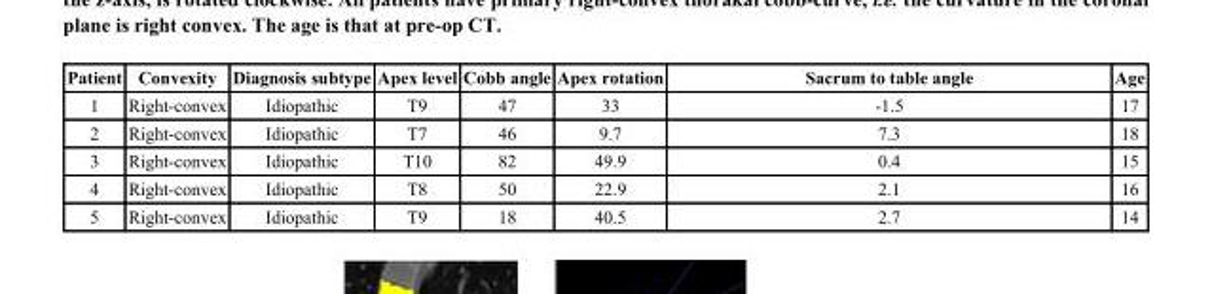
<table><thead><tr><td>Patient</td><td>Convexity</td><td>Diagnosis subtype</td><td>Apex level</td><td>Cobb angle</td><td>Apex rotation</td><td>Sacrum to table angle</td><td>Age</td></tr></thead><tbody><tr><td>1</td><td>Right-convex</td><td>Idiopathic</td><td>T9</td><td>47</td><td>33</td><td>-1.5</td><td>17</td></tr><tr><td>2</td><td>Right-convex</td><td>Idiopathic</td><td>T7</td><td>46</td><td>9.7</td><td>7.3</td><td>18</td></tr><tr><td>3</td><td>Right-convex</td><td>Idiopathic</td><td>T10</td><td>82</td><td>49.9</td><td>0.4</td><td>15</td></tr><tr><td>4</td><td>Right-convex</td><td>Idiopathic</td><td>T8</td><td>50</td><td>22.9</td><td>2.1</td><td>16</td></tr><tr><td>5</td><td>Right-convex</td><td>Idiopathic</td><td>T9</td><td>18</td><td>40.5</td><td>2.7</td><td>14</td></tr></tbody></table>